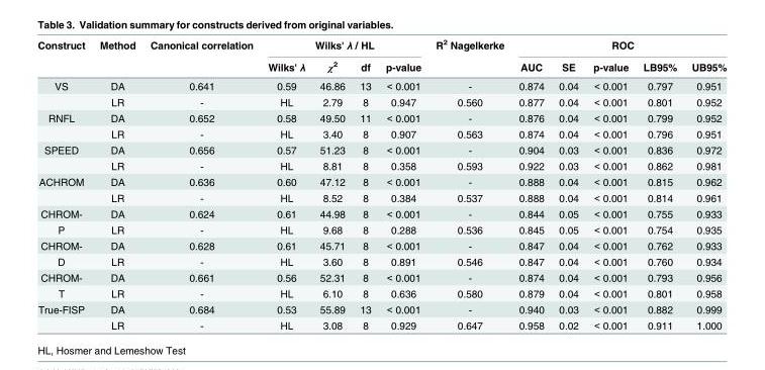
<table><thead><tr><td rowspan="2">Construct</td><td rowspan="2">Method</td><td rowspan="2">Canonical correlation</td><td colspan="4">Wilks&#x27; λ / HL</td><td rowspan="2">R<sup>2</sup> Nagelkerke</td><td colspan="5">ROC</td></tr><tr><td>Wilks&#x27; λ</td><td>χ<sup>2</sup></td><td>df</td><td>p-value</td><td>AUC</td><td>SE</td><td>p-value</td><td>LB95%</td><td>UB95%</td></tr></thead><tbody><tr><td rowspan="2">VS</td><td>DA</td><td>0.641</td><td>0.59</td><td>46.86</td><td>13</td><td>&lt; 0.001</td><td>-</td><td>0.874</td><td>0.04</td><td>&lt; 0.001</td><td>0.797</td><td>0.951</td></tr><tr><td>LR</td><td>-</td><td>HL</td><td>2.79</td><td>8</td><td>0.947</td><td>0.560</td><td>0.877</td><td>0.04</td><td>&lt; 0.001</td><td>0.801</td><td>0.952</td></tr><tr><td rowspan="2">RNFL</td><td>DA</td><td>0.652</td><td>0.58</td><td>49.50</td><td>11</td><td>&lt; 0.001</td><td>-</td><td>0.876</td><td>0.04</td><td>&lt; 0.001</td><td>0.799</td><td>0.952</td></tr><tr><td>LR</td><td>-</td><td>HL</td><td>3.40</td><td>8</td><td>0.907</td><td>0.563</td><td>0.874</td><td>0.04</td><td>&lt; 0.001</td><td>0.796</td><td>0.951</td></tr><tr><td rowspan="2">SPEED</td><td>DA</td><td>0.656</td><td>0.57</td><td>51.23</td><td>8</td><td>&lt; 0.001</td><td>-</td><td>0.904</td><td>0.03</td><td>&lt; 0.001</td><td>0.836</td><td>0.972</td></tr><tr><td>LR</td><td>-</td><td>HL</td><td>8.81</td><td>8</td><td>0.358</td><td>0.593</td><td>0.922</td><td>0.03</td><td>&lt; 0.001</td><td>0.862</td><td>0.981</td></tr><tr><td rowspan="2">ACHROM</td><td>DA</td><td>0.636</td><td>0.60</td><td>47.12</td><td>8</td><td>&lt; 0.001</td><td>-</td><td>0.888</td><td>0.04</td><td>&lt; 0.001</td><td>0.815</td><td>0.962</td></tr><tr><td>LR</td><td>-</td><td>HL</td><td>8.52</td><td>8</td><td>0.384</td><td>0.537</td><td>0.888</td><td>0.04</td><td>&lt; 0.001</td><td>0.814</td><td>0.961</td></tr><tr><td>CHROM-</td><td>DA</td><td>0.624</td><td>0.61</td><td>44.98</td><td>8</td><td>&lt; 0.001</td><td>-</td><td>0.844</td><td>0.05</td><td>&lt; 0.001</td><td>0.755</td><td>0.933</td></tr><tr><td>P</td><td>LR</td><td>-</td><td>HL</td><td>9.68</td><td>8</td><td>0.288</td><td>0.536</td><td>0.845</td><td>0.05</td><td>&lt; 0.001</td><td>0.754</td><td>0.935</td></tr><tr><td>CHROM-</td><td>DA</td><td>0.628</td><td>0.61</td><td>45.71</td><td>8</td><td>&lt; 0.001</td><td>-</td><td>0.847</td><td>0.04</td><td>&lt; 0.001</td><td>0.762</td><td>0.933</td></tr><tr><td>D</td><td>LR</td><td>-</td><td>HL</td><td>3.60</td><td>8</td><td>0.891</td><td>0.546</td><td>0.847</td><td>0.04</td><td>&lt; 0.001</td><td>0.760</td><td>0.934</td></tr><tr><td>CHROM-</td><td>DA</td><td>0.661</td><td>0.56</td><td>52.31</td><td>8</td><td>&lt; 0.001</td><td>-</td><td>0.874</td><td>0.04</td><td>&lt; 0.001</td><td>0.793</td><td>0.956</td></tr><tr><td>T</td><td>LR</td><td>-</td><td>HL</td><td>6.10</td><td>8</td><td>0.636</td><td>0.580</td><td>0.879</td><td>0.04</td><td>&lt; 0.001</td><td>0.801</td><td>0.958</td></tr><tr><td rowspan="2">True-FISP</td><td>DA</td><td>0.684</td><td>0.53</td><td>55.89</td><td>13</td><td>&lt; 0.001</td><td>-</td><td>0.940</td><td>0.03</td><td>&lt; 0.001</td><td>0.882</td><td>0.999</td></tr><tr><td>LR</td><td>-</td><td>HL</td><td>3.08</td><td>8</td><td>0.929</td><td>0.647</td><td>0.958</td><td>0.02</td><td>&lt; 0.001</td><td>0.911</td><td>1.000</td></tr></tbody></table>